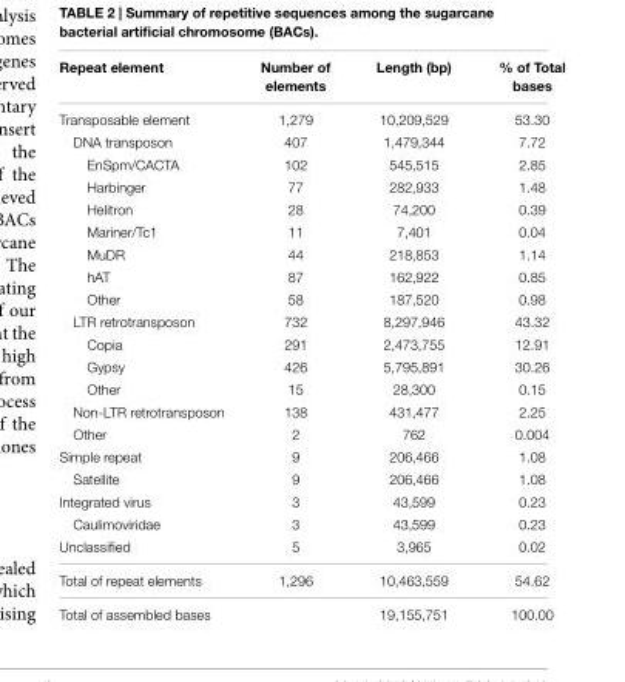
<table><thead><tr><td>Repeat element</td><td>Number of elements</td><td>Length (bp)</td><td>% of Total bases</td></tr></thead><tbody><tr><td>Transposable element</td><td>1,279</td><td>10,209,529</td><td>53.30</td></tr><tr><td>DNA transposon</td><td>407</td><td>1,479,344</td><td>7.72</td></tr><tr><td>EnSpm/CACTA</td><td>102</td><td>545,515</td><td>2.85</td></tr><tr><td>Harbinger</td><td>77</td><td>282,933</td><td>1.48</td></tr><tr><td>Helitron</td><td>28</td><td>74,200</td><td>0.39</td></tr><tr><td>Mariner/Tc1</td><td>11</td><td>7,401</td><td>0.04</td></tr><tr><td>MuDR</td><td>44</td><td>218,853</td><td>1.14</td></tr><tr><td>hAT</td><td>87</td><td>162,922</td><td>0.85</td></tr><tr><td>Other</td><td>58</td><td>187,520</td><td>0.98</td></tr><tr><td>LTR retrotransposon</td><td>732</td><td>8,297,946</td><td>43.32</td></tr><tr><td>Copia</td><td>291</td><td>2,473,755</td><td>12.91</td></tr><tr><td>Gypsy</td><td>426</td><td>5,795,891</td><td>30.26</td></tr><tr><td>Other</td><td>15</td><td>28,300</td><td>0.15</td></tr><tr><td>Non-LTR retrotransposon</td><td>138</td><td>431,477</td><td>2.25</td></tr><tr><td>Other</td><td>2</td><td>762</td><td>0.004</td></tr><tr><td>Simple repeat</td><td>9</td><td>206,466</td><td>1.08</td></tr><tr><td>Satellite</td><td>9</td><td>206,466</td><td>1.08</td></tr><tr><td>Integrated virus</td><td>3</td><td>43,599</td><td>0.23</td></tr><tr><td>Caulimoviridae</td><td>3</td><td>43,599</td><td>0.23</td></tr><tr><td>Unclassified</td><td>5</td><td>3,965</td><td>0.02</td></tr><tr><td>Total of repeat elements</td><td>1,296</td><td>10,463,559</td><td>54.62</td></tr><tr><td>Total of assembled bases</td><td></td><td>19,155,751</td><td>100.00</td></tr></tbody></table>